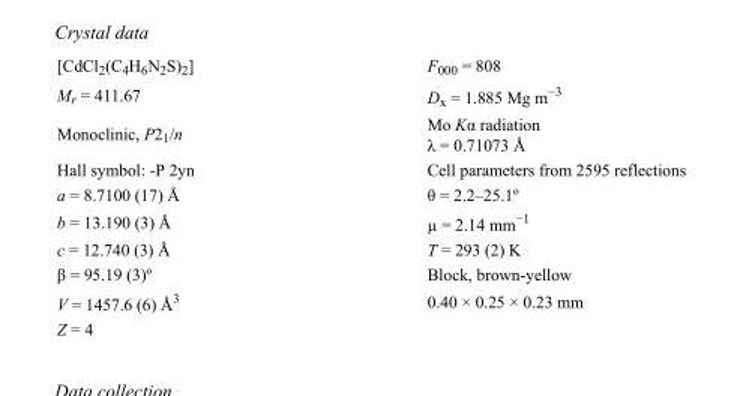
<table><tbody><tr><td>[CdCl<sub>2</sub>(C<sub>4</sub>H<sub>6</sub>N<sub>2</sub>S)<sub>2</sub>]</td><td>F000 = 808</td></tr><tr><td>M<sub>r</sub> = 411.67</td><td>D<sub>x</sub> = 1.885 Mg m<sup>−3</sup></td></tr><tr><td>Monoclinic, P2<sub>1</sub>/n</td><td>Mo Kα radiation λ = 0.71073 Å</td></tr><tr><td>Hall symbol: -P 2yn</td><td>Cell parameters from 2595 reflections</td></tr><tr><td>a = 8.7100 (17) Å</td><td>θ = 2.2–25.1º</td></tr><tr><td>b = 13.190 (3) Å</td><td>µ = 2.14 mm<sup>−1</sup></td></tr><tr><td>c = 12.740 (3) Å</td><td>T = 293 (2) K</td></tr><tr><td>β = 95.19 (3)º</td><td>Block, brown-yellow</td></tr><tr><td>V = 1457.6 (6) Å<sup>3</sup></td><td>0.40 × 0.25 × 0.23 mm</td></tr><tr><td>Z = 4</td><td></td></tr></tbody></table>